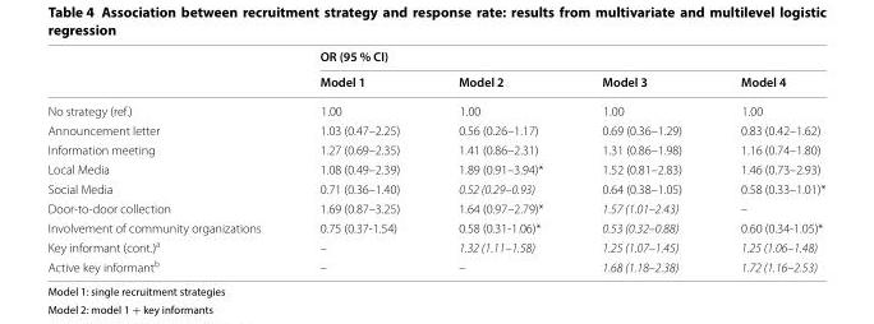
<table><thead><tr><td rowspan="2"></td><td colspan="4">OR (95 % CI)</td></tr><tr><td>Model 1</td><td>Model 2</td><td>Model 3</td><td>Model 4</td></tr></thead><tbody><tr><td>No strategy (ref.)</td><td>1.00</td><td>1.00</td><td>1.00</td><td>1.00</td></tr><tr><td>Announcement letter</td><td>1.03 (0.47–2.25)</td><td>0.56 (0.26–1.17)</td><td>0.69 (0.36–1.29)</td><td>0.83 (0.42–1.62)</td></tr><tr><td>Information meeting</td><td>1.27 (0.69–2.35)</td><td>1.41 (0.86–2.31)</td><td>1.31 (0.86–1.98)</td><td>1.16 (0.74–1.80)</td></tr><tr><td>Local Media</td><td>1.08 (0.49–2.39)</td><td>1.89 (0.91–3.94)*</td><td>1.52 (0.81–2.83)</td><td>1.46 (0.73–2.93)</td></tr><tr><td>Social Media</td><td>0.71 (0.36–1.40)</td><td>0.52 (0.29–0.93)</td><td>0.64 (0.38–1.05)</td><td>0.58 (0.33–1.01)*</td></tr><tr><td>Door-to-door collection</td><td>1.69 (0.87–3.25)</td><td>1.64 (0.97–2.79)*</td><td>1.57 (1.01–2.43)</td><td>–</td></tr><tr><td>Involvement of community organizations</td><td>0.75 (0.37-1.54)</td><td>0.58 (0.31-1.06)*</td><td>0.53 (0.32–0.88)</td><td>0.60 (0.34-1.05)*</td></tr><tr><td>Key informant (cont.)<sup>a</sup></td><td>–</td><td>1.32 (1.11–1.58)</td><td>1.25 (1.07–1.45)</td><td>1.25 (1.06–1.48)</td></tr><tr><td>Active key informant<sup>b</sup></td><td>–</td><td>–</td><td>1.68 (1.18–2.38)</td><td>1.72 (1.16–2.53)</td></tr></tbody></table>